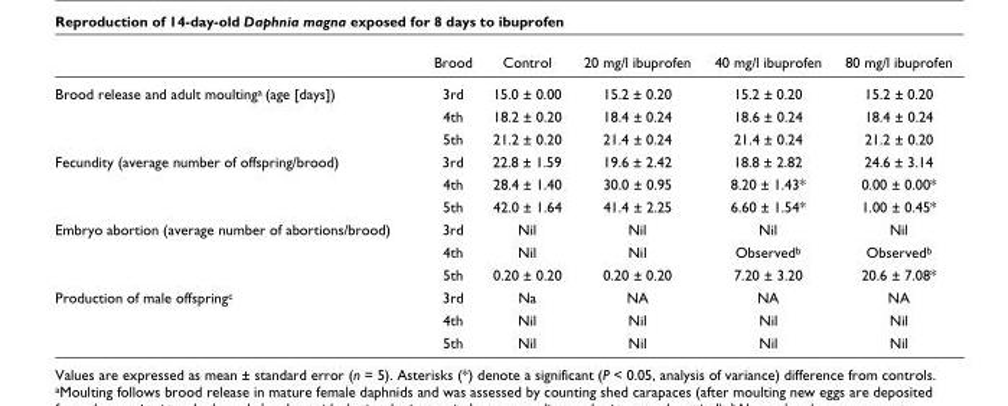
<table><thead><tr><td></td><td>Brood</td><td>Control</td><td>20 mg/l ibuprofen</td><td>40 mg/l ibuprofen</td><td>80 mg/l ibuprofen</td></tr></thead><tbody><tr><td rowspan="3">Brood release and adult moulting<sup>a</sup> (age [days])</td><td>3rd</td><td>15.0 ± 0.00</td><td>15.2 ± 0.20</td><td>15.2 ± 0.20</td><td>15.2 ± 0.20</td></tr><tr><td>4th</td><td>18.2 ± 0.20</td><td>18.4 ± 0.24</td><td>18.6 ± 0.24</td><td>18.4 ± 0.24</td></tr><tr><td>5th</td><td>21.2 ± 0.20</td><td>21.4 ± 0.24</td><td>21.4 ± 0.24</td><td>21.2 ± 0.20</td></tr><tr><td rowspan="3">Fecundity (average number of offspring/brood)</td><td>3rd</td><td>22.8 ± 1.59</td><td>19.6 ± 2.42</td><td>18.8 ± 2.82</td><td>24.6 ± 3.14</td></tr><tr><td>4th</td><td>28.4 ± 1.40</td><td>30.0 ± 0.95</td><td>8.20 ± 1.43*</td><td>0.00 ± 0.00*</td></tr><tr><td>5th</td><td>42.0 ± 1.64</td><td>41.4 ± 2.25</td><td>6.60 ± 1.54*</td><td>1.00 ± 0.45*</td></tr><tr><td rowspan="3">Embryo abortion (average number of abortions/brood)</td><td>3rd</td><td>Nil</td><td>Nil</td><td>Nil</td><td>Nil</td></tr><tr><td>4th</td><td>Nil</td><td>Nil</td><td>Observed<sup>b</sup></td><td>Observed<sup>b</sup></td></tr><tr><td>5th</td><td>0.20 ± 0.20</td><td>0.20 ± 0.20</td><td>7.20 ± 3.20</td><td>20.6 ± 7.08*</td></tr><tr><td rowspan="3">Production of male offspring<sup>c</sup></td><td>3rd</td><td>Na</td><td>NA</td><td>NA</td><td>NA</td></tr><tr><td>4th</td><td>Nil</td><td>Nil</td><td>Nil</td><td>Nil</td></tr><tr><td>5th</td><td>Nil</td><td>Nil</td><td>Nil</td><td>Nil</td></tr></tbody></table>